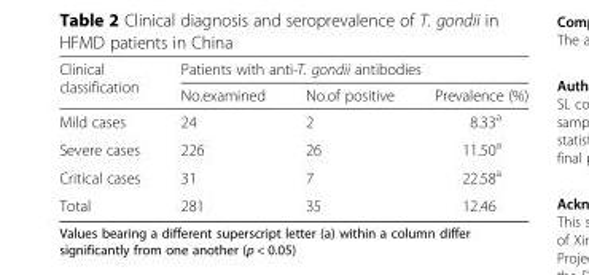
<table><thead><tr><td rowspan="2">Clinical classification</td><td colspan="3">Patients with anti-T. gondii antibodies</td></tr><tr><td>No.examined</td><td>No.of positive</td><td>Prevalence (%)</td></tr></thead><tbody><tr><td>Mild cases</td><td>24</td><td>2</td><td>8.33<sup>a</sup></td></tr><tr><td>Severe cases</td><td>226</td><td>26</td><td>11.50<sup>a</sup></td></tr><tr><td>Critical cases</td><td>31</td><td>7</td><td>22.58<sup>a</sup></td></tr><tr><td>Total</td><td>281</td><td>35</td><td>12.46</td></tr></tbody></table>